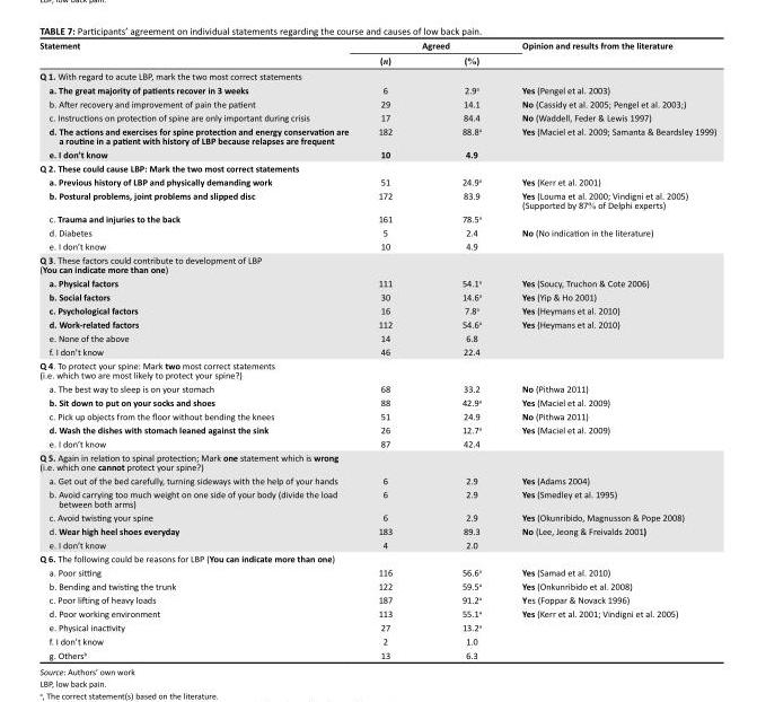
<table><thead><tr><td rowspan="2">Statement</td><td colspan="2">Agreed</td><td rowspan="2">Opinion and results from the literature</td></tr><tr><td>(n)</td><td>(%)</td></tr></thead><tbody><tr><td colspan="4">Q 1. With regard to acute LBP, mark the two most correct statements</td></tr><tr><td>a. The great majority of patients recover in 3 weeks</td><td>6</td><td>2.9<sup>a</sup></td><td>Yes (Pengel et al. 2003)</td></tr><tr><td>b. After recovery and improvement of pain the patient</td><td>29</td><td>14.1</td><td>No (Cassidy et al. 2005; Pengel et al. 2003;)</td></tr><tr><td>c. Instructions on protection of spine are only important during crisis</td><td>17</td><td>84.4</td><td>No (Waddell, Feder &amp; Lewis 1997)</td></tr><tr><td>d. The actions and exercises for spine protection and energy conservation are a routine in a patient with history of LBP because relapses are frequent</td><td>182</td><td>88.8<sup>a</sup></td><td>Yes (Maciel et al. 2009; Samanta &amp; Beardsley 1999)</td></tr><tr><td>e. I don’t know</td><td>10</td><td>4.9</td><td></td></tr><tr><td colspan="4">Q 2. These could cause LBP: Mark the two most correct statements</td></tr><tr><td>a. Previous history of LBP and physically demanding work</td><td>51</td><td>24.9<sup>a</sup></td><td>Yes (Kerr et al. 2001)</td></tr><tr><td>b. Postural problems, joint problems and slipped disc</td><td>172</td><td>83.9</td><td>Yes (Louma et al. 2000; Vindigni et al. 2005) (Supported by 87% of Delphi experts)</td></tr><tr><td>c. Trauma and injuries to the back</td><td>161</td><td>78.5<sup>a</sup></td><td></td></tr><tr><td>d. Diabetes</td><td>5</td><td>2.4</td><td>No (No indication in the literature)</td></tr><tr><td>e. I don’t know</td><td>10</td><td>4.9</td><td></td></tr><tr><td colspan="4">Q 3. These factors could contribute to development of LBP (You can indicate more than one)</td></tr><tr><td>a. Physical factors</td><td>111</td><td>54.1<sup>a</sup></td><td>Yes (Soucy, Truchon &amp; Cote 2006)</td></tr><tr><td>b. Social factors</td><td>30</td><td>14.6<sup>a</sup></td><td>Yes (Yip &amp; Ho 2001)</td></tr><tr><td>c. Psychological factors</td><td>16</td><td>7.8<sup>a</sup></td><td>Yes (Heymans et al. 2010)</td></tr><tr><td>d. Work-related factors</td><td>112</td><td>54.6<sup>a</sup></td><td>Yes (Heymans et al. 2010)</td></tr><tr><td>e. None of the above</td><td>14</td><td>6.8</td><td></td></tr><tr><td>f. I don’t know</td><td>46</td><td>22.4</td><td></td></tr><tr><td colspan="4">Q 4. To protect your spine: Mark two most correct statements (i.e. which two are most likely to protect your spine?)</td></tr><tr><td>a. The best way to sleep is on your stomach</td><td>68</td><td>33.2</td><td>No (Pithwa 2011)</td></tr><tr><td>b. Sit down to put on your socks and shoes</td><td>88</td><td>42.9<sup>a</sup></td><td>Yes (Maciel et al. 2009)</td></tr><tr><td>c. Pick up objects from the floor without bending the knees</td><td>51</td><td>24.9</td><td>No (Pithwa 2011)</td></tr><tr><td>d. Wash the dishes with stomach leaned against the sink</td><td>26</td><td>12.7<sup>a</sup></td><td>Yes (Maciel et al. 2009)</td></tr><tr><td>e. I don’t know</td><td>87</td><td>42.4</td><td></td></tr><tr><td colspan="4">Q 5. Again in relation to spinal protection; Mark one statement which is wrong (i.e. which one cannot protect your spine?)</td></tr><tr><td>a. Get out of the bed carefully, turning sideways with the help of your hands</td><td>6</td><td>2.9</td><td>Yes (Adams 2004)</td></tr><tr><td>b. Avoid carrying too much weight on one side of your body (divide the load between both arms)</td><td>6</td><td>2.9</td><td>Yes (Smedley et al. 1995)</td></tr><tr><td>c. Avoid twisting your spine</td><td>6</td><td>2.9</td><td>Yes (Okunribido, Magnusson &amp; Pope 2008)</td></tr><tr><td>d. Wear high heel shoes everyday</td><td>183</td><td>89.3</td><td>No (Lee, Jeong &amp; Freivalds 2001)</td></tr><tr><td>e. I don’t know</td><td>4</td><td>2.0</td><td></td></tr><tr><td colspan="4">Q 6. The following could be reasons for LBP (You can indicate more than one)</td></tr><tr><td>a. Poor sitting</td><td>116</td><td>56.6<sup>a</sup></td><td>Yes (Samad et al. 2010)</td></tr><tr><td>b. Bending and twisting the trunk</td><td>122</td><td>59.5<sup>a</sup></td><td>Yes (Onkunribido et al. 2008)</td></tr><tr><td>c. Poor lifting of heavy loads</td><td>187</td><td>91.2<sup>a</sup></td><td>Yes (Foppar &amp; Novack 1996)</td></tr><tr><td>d. Poor working environment</td><td>113</td><td>55.1<sup>a</sup></td><td>Yes (Kerr et al. 2001; Vindigni et al. 2005)</td></tr><tr><td>e. Physical inactivity</td><td>27</td><td>13.2<sup>a</sup></td><td></td></tr><tr><td>f. I don’t know</td><td>2</td><td>1.0</td><td></td></tr><tr><td>g. Others<sup>b</sup></td><td>13</td><td>6.3</td><td></td></tr></tbody></table>